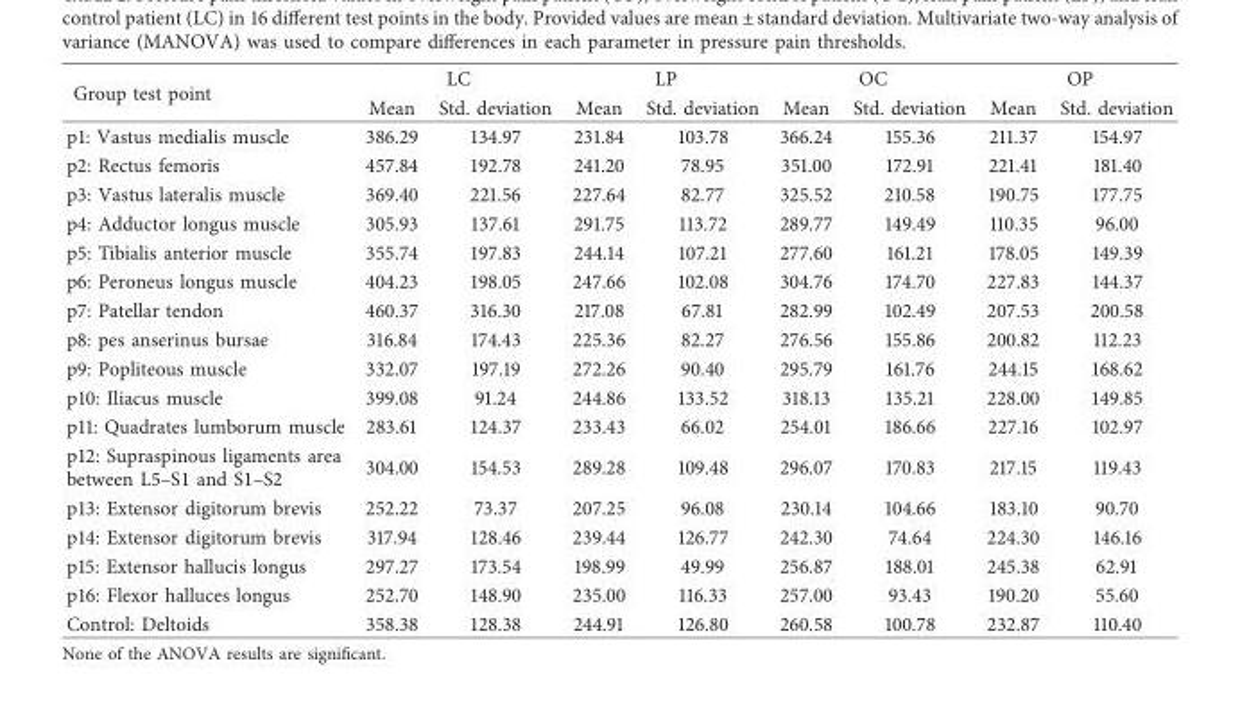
<table><thead><tr><td rowspan="2">Group test point</td><td colspan="2">LC</td><td colspan="2">LP</td><td colspan="2">OC</td><td colspan="2">OP</td></tr><tr><td>Mean</td><td>Std. deviation</td><td>Mean</td><td>Std. deviation</td><td>Mean</td><td>Std. deviation</td><td>Mean</td><td>Std. deviation</td></tr></thead><tbody><tr><td>p1: Vastus medialis muscle</td><td>386.29</td><td>134.97</td><td>231.84</td><td>103.78</td><td>366.24</td><td>155.36</td><td>211.37</td><td>154.97</td></tr><tr><td>p2: Rectus femoris</td><td>457.84</td><td>192.78</td><td>241.20</td><td>78.95</td><td>351.00</td><td>172.91</td><td>221.41</td><td>181.40</td></tr><tr><td>p3: Vastus lateralis muscle</td><td>369.40</td><td>221.56</td><td>227.64</td><td>82.77</td><td>325.52</td><td>210.58</td><td>190.75</td><td>177.75</td></tr><tr><td>p4: Adductor longus muscle</td><td>305.93</td><td>137.61</td><td>291.75</td><td>113.72</td><td>289.77</td><td>149.49</td><td>110.35</td><td>96.00</td></tr><tr><td>p5: Tibialis anterior muscle</td><td>355.74</td><td>197.83</td><td>244.14</td><td>107.21</td><td>277.60</td><td>161.21</td><td>178.05</td><td>149.39</td></tr><tr><td>p6: Peroneus longus muscle</td><td>404.23</td><td>198.05</td><td>247.66</td><td>102.08</td><td>304.76</td><td>174.70</td><td>227.83</td><td>144.37</td></tr><tr><td>p7: Patellar tendon</td><td>460.37</td><td>316.30</td><td>217.08</td><td>67.81</td><td>282.99</td><td>102.49</td><td>207.53</td><td>200.58</td></tr><tr><td>p8: pes anserinus bursae</td><td>316.84</td><td>174.43</td><td>225.36</td><td>82.27</td><td>276.56</td><td>155.86</td><td>200.82</td><td>112.23</td></tr><tr><td>p9: Popliteous muscle</td><td>332.07</td><td>197.19</td><td>272.26</td><td>90.40</td><td>295.79</td><td>161.76</td><td>244.15</td><td>168.62</td></tr><tr><td>p10: Iliacus muscle</td><td>399.08</td><td>91.24</td><td>244.86</td><td>133.52</td><td>318.13</td><td>135.21</td><td>228.00</td><td>149.85</td></tr><tr><td>p11: Quadrates lumborum muscle</td><td>283.61</td><td>124.37</td><td>233.43</td><td>66.02</td><td>254.01</td><td>186.66</td><td>227.16</td><td>102.97</td></tr><tr><td>p12: Supraspinous ligaments area between L5–S1 and S1–S2</td><td>304.00</td><td>154.53</td><td>289.28</td><td>109.48</td><td>296.07</td><td>170.83</td><td>217.15</td><td>119.43</td></tr><tr><td>p13: Extensor digitorum brevis</td><td>252.22</td><td>73.37</td><td>207.25</td><td>96.08</td><td>230.14</td><td>104.66</td><td>183.10</td><td>90.70</td></tr><tr><td>p14: Extensor digitorum brevis</td><td>317.94</td><td>128.46</td><td>239.44</td><td>126.77</td><td>242.30</td><td>74.64</td><td>224.30</td><td>146.16</td></tr><tr><td>p15: Extensor hallucis longus</td><td>297.27</td><td>173.54</td><td>198.99</td><td>49.99</td><td>256.87</td><td>188.01</td><td>245.38</td><td>62.91</td></tr><tr><td>p16: Flexor halluces longus</td><td>252.70</td><td>148.90</td><td>235.00</td><td>116.33</td><td>257.00</td><td>93.43</td><td>190.20</td><td>55.60</td></tr><tr><td>Control: Deltoids</td><td>358.38</td><td>128.38</td><td>244.91</td><td>126.80</td><td>260.58</td><td>100.78</td><td>232.87</td><td>110.40</td></tr></tbody></table>